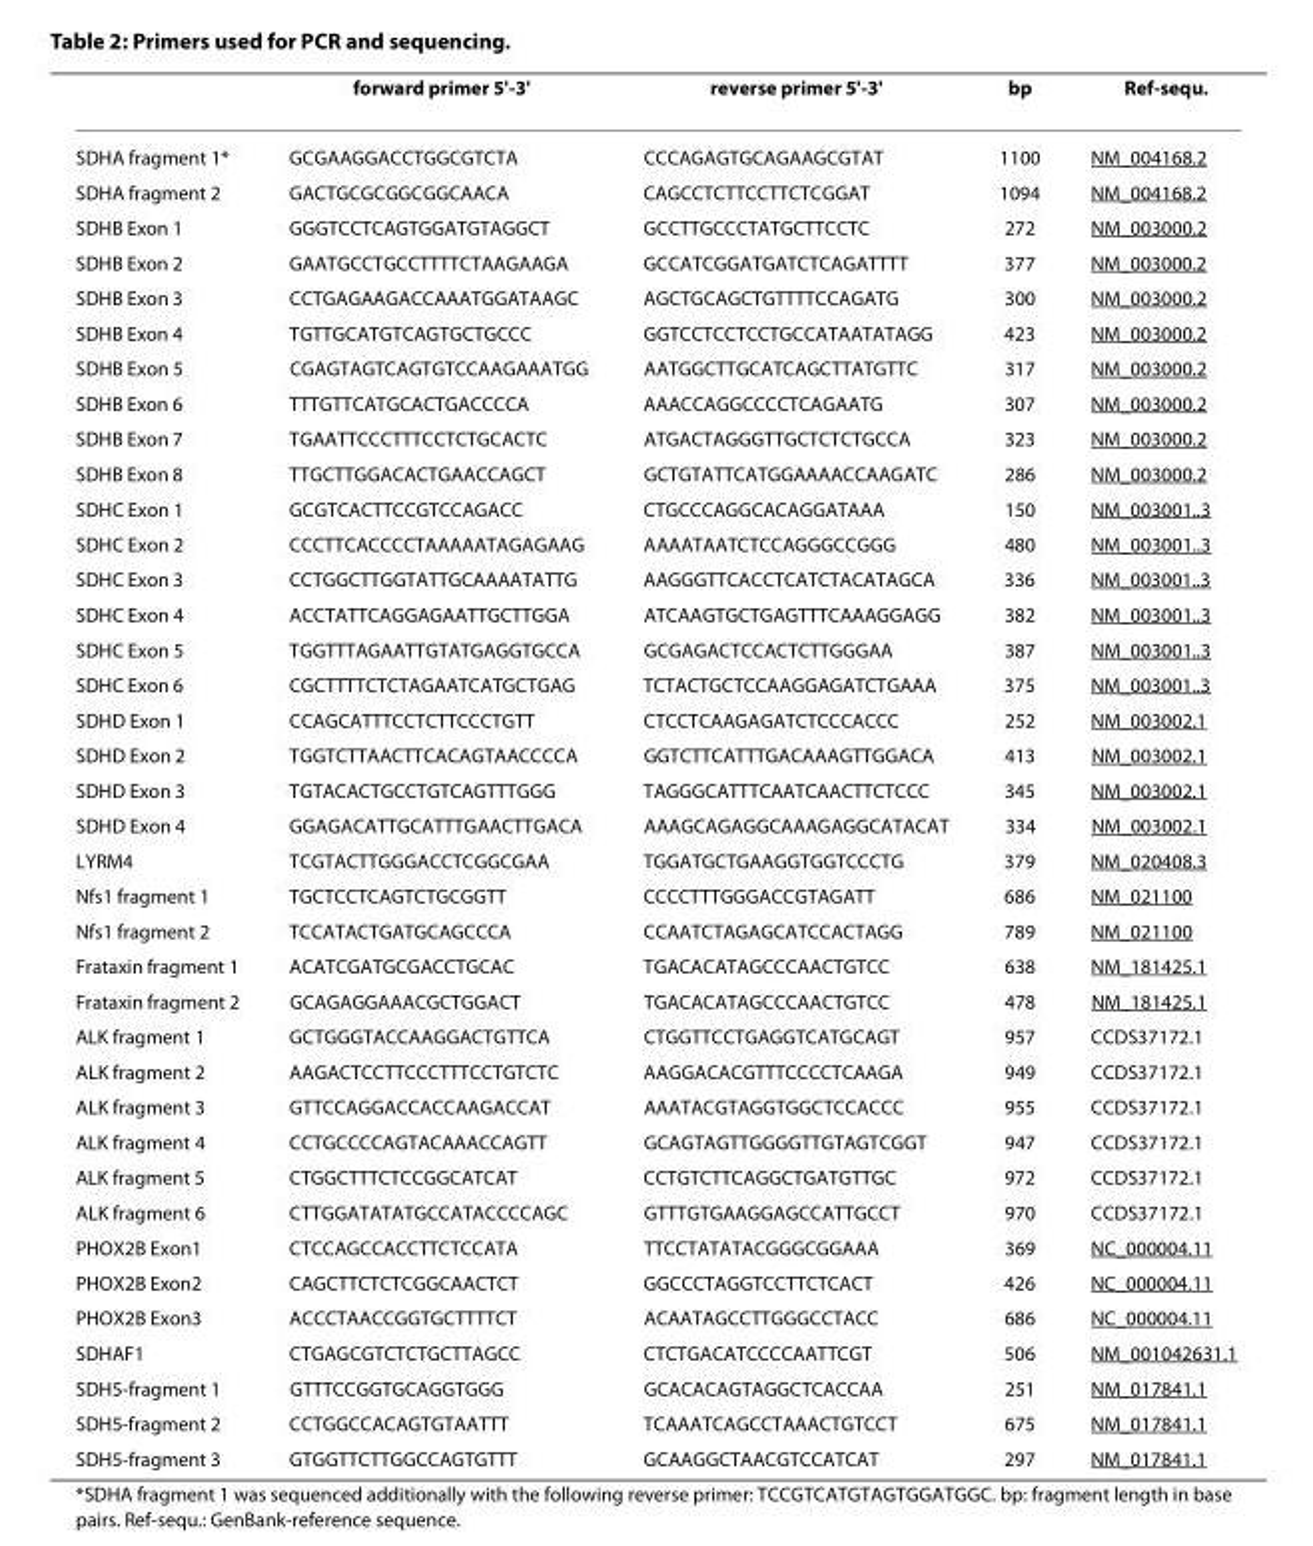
<table><thead><tr><td></td><td>forward primer 5&#x27;-3&#x27;</td><td>reverse primer 5&#x27;-3&#x27;</td><td>bp</td><td>Ref-sequ.</td></tr></thead><tbody><tr><td>SDHA fragment 1*</td><td>GCGAAGGACCTGGCGTCTA</td><td>CCCAGAGTGCAGAAGCGTAT</td><td>1100</td><td>NM_004168.2</td></tr><tr><td>SDHA fragment 2</td><td>GACTGCGCGGCGGCAACA</td><td>CAGCCTCTTCCTTCTCGGAT</td><td>1094</td><td>NM_004168.2</td></tr><tr><td>SDHB Exon 1</td><td>GGGTCCTCAGTGGATGTAGGCT</td><td>GCCTTGCCCTATGCTTCCTC</td><td>272</td><td>NM_003000.2</td></tr><tr><td>SDHB Exon 2</td><td>GAATGCCTGCCTTTTCTAAGAAGA</td><td>GCCATCGGATGATCTCAGATTTT</td><td>377</td><td>NM_003000.2</td></tr><tr><td>SDHB Exon 3</td><td>CCTGAGAAGACCAAATGGATAAGC</td><td>AGCTGCAGCTGTTTTCCAGATG</td><td>300</td><td>NM_003000.2</td></tr><tr><td>SDHB Exon 4</td><td>TGTTGCATGTCAGTGCTGCCC</td><td>GGTCCTCCTCCTGCCATAATATAGG</td><td>423</td><td>NM_003000.2</td></tr><tr><td>SDHB Exon 5</td><td>CGAGTAGTCAGTGTCCAAGAAATGG</td><td>AATGGCTTGCATCAGCTTATGTTC</td><td>317</td><td>NM_003000.2</td></tr><tr><td>SDHB Exon 6</td><td>TTTGTTCATGCACTGACCCCA</td><td>AAACCAGGCCCCTCAGAATG</td><td>307</td><td>NM_003000.2</td></tr><tr><td>SDHB Exon 7</td><td>TGAATTCCCTTTCCTCTGCACTC</td><td>ATGACTAGGGTTGCTCTCTGCCA</td><td>323</td><td>NM_003000.2</td></tr><tr><td>SDHB Exon 8</td><td>TTGCTTGGACACTGAACCAGCT</td><td>GCTGTATTCATGGAAAACCAAGATC</td><td>286</td><td>NM_003000.2</td></tr><tr><td>SDHC Exon 1</td><td>GCGTCACTTCCGTCCAGACC</td><td>CTGCCCAGGCACAGGATAAA</td><td>150</td><td>NM_003001..3</td></tr><tr><td>SDHC Exon 2</td><td>CCCTTCACCCCTAAAAATAGAGAAG</td><td>AAAATAATCTCCAGGGCCGGG</td><td>480</td><td>NM_003001..3</td></tr><tr><td>SDHC Exon 3</td><td>CCTGGCTTGGTATTGCAAAATATTG</td><td>AAGGGTTCACCTCATCTACATAGCA</td><td>336</td><td>NM_003001..3</td></tr><tr><td>SDHC Exon 4</td><td>ACCTATTCAGGAGAATTGCTTGGA</td><td>ATCAAGTGCTGAGTTTCAAAGGAGG</td><td>382</td><td>NM_003001..3</td></tr><tr><td>SDHC Exon 5</td><td>TGGTTTAGAATTGTATGAGGTGCCA</td><td>GCGAGACTCCACTCTTGGGAA</td><td>387</td><td>NM_003001..3</td></tr><tr><td>SDHC Exon 6</td><td>CGCTTTTCTCTAGAATCATGCTGAG</td><td>TCTACTGCTCCAAGGAGATCTGAAA</td><td>375</td><td>NM_003001..3</td></tr><tr><td>SDHD Exon 1</td><td>CCAGCATTTCCTCTTCCCTGTT</td><td>CTCCTCAAGAGATCTCCCACCC</td><td>252</td><td>NM_003002.1</td></tr><tr><td>SDHD Exon 2</td><td>TGGTCTTAACTTCACAGTAACCCCA</td><td>GGTCTTCATTTGACAAAGTTGGACA</td><td>413</td><td>NM_003002.1</td></tr><tr><td>SDHD Exon 3</td><td>TGTACACTGCCTGTCAGTTTGGG</td><td>TAGGGCATTTCAATCAACTTCTCCC</td><td>345</td><td>NM_003002.1</td></tr><tr><td>SDHD Exon 4</td><td>GGAGACATTGCATTTGAACTTGACA</td><td>AAAGCAGAGGCAAAGAGGCATACAT</td><td>334</td><td>NM_003002.1</td></tr><tr><td>LYRM4</td><td>TCGTACTTGGGACCTCGGCGAA</td><td>TGGATGCTGAAGGTGGTCCCTG</td><td>379</td><td>NM_020408.3</td></tr><tr><td>Nfs1 fragment 1</td><td>TGCTCCTCAGTCTGCGGTT</td><td>CCCCTTTGGGACCGTAGATT</td><td>686</td><td>NM_021100</td></tr><tr><td>Nfs1 fragment 2</td><td>TCCATACTGATGCAGCCCA</td><td>CCAATCTAGAGCATCCACTAGG</td><td>789</td><td>NM_021100</td></tr><tr><td>Frataxin fragment 1</td><td>ACATCGATGCGACCTGCAC</td><td>TGACACATAGCCCAACTGTCC</td><td>638</td><td>NM_181425.1</td></tr><tr><td>Frataxin fragment 2</td><td>GCAGAGGAAACGCTGGACT</td><td>TGACACATAGCCCAACTGTCC</td><td>478</td><td>NM_181425.1</td></tr><tr><td>ALK fragment 1</td><td>GCTGGGTACCAAGGACTGTTCA</td><td>CTGGTTCCTGAGGTCATGCAGT</td><td>957</td><td>CCDS37172.1</td></tr><tr><td>ALK fragment 2</td><td>AAGACTCCTTCCCTTTCCTGTCTC</td><td>AAGGACACGTTTCCCCTCAAGA</td><td>949</td><td>CCDS37172.1</td></tr><tr><td>ALK fragment 3</td><td>GTTCCAGGACCACCAAGACCAT</td><td>AAATACGTAGGTGGCTCCACCC</td><td>955</td><td>CCDS37172.1</td></tr><tr><td>ALK fragment 4</td><td>CCTGCCCCAGTACAAACCAGTT</td><td>GCAGTAGTTGGGGTTGTAGTCGGT</td><td>947</td><td>CCDS37172.1</td></tr><tr><td>ALK fragment 5</td><td>CTGGCTTTCTCCGGCATCAT</td><td>CCTGTCTTCAGGCTGATGTTGC</td><td>972</td><td>CCDS37172.1</td></tr><tr><td>ALK fragment 6</td><td>CTTGGATATATGCCATACCCCAGC</td><td>GTTTGTGAAGGAGCCATTGCCT</td><td>970</td><td>CCDS37172.1</td></tr><tr><td>PHOX2B Exon1</td><td>CTCCAGCCACCTTCTCCATA</td><td>TTCCTATATACGGGCGGAAA</td><td>369</td><td>NC_000004.11</td></tr><tr><td>PHOX2B Exon2</td><td>CAGCTTCTCTCGGCAACTCT</td><td>GGCCCTAGGTCCTTCTCACT</td><td>426</td><td>NC_000004.11</td></tr><tr><td>PHOX2B Exon3</td><td>ACCCTAACCGGTGCTTTTCT</td><td>ACAATAGCCTTGGGCCTACC</td><td>686</td><td>NC_000004.11</td></tr><tr><td>SDHAF1</td><td>CTGAGCGTCTCTGCTTAGCC</td><td>CTCTGACATCCCCAATTCGT</td><td>506</td><td>NM_001042631.1</td></tr><tr><td>SDH5-fragment 1</td><td>GTTTCCGGTGCAGGTGGG</td><td>GCACACAGTAGGCTCACCAA</td><td>251</td><td>NM_017841.1</td></tr><tr><td>SDH5-fragment 2</td><td>CCTGGCCACAGTGTAATTT</td><td>TCAAATCAGCCTAAACTGTCCT</td><td>675</td><td>NM_017841.1</td></tr><tr><td>SDH5-fragment 3</td><td>GTGGTTCTTGGCCAGTGTTT</td><td>GCAAGGCTAACGTCCATCAT</td><td>297</td><td>NM_017841.1</td></tr></tbody></table>